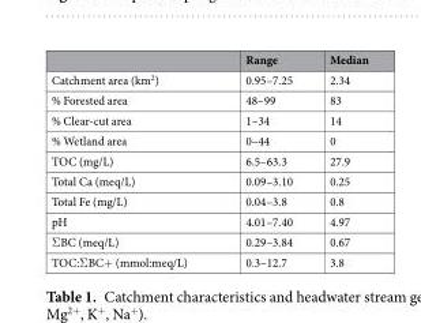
<table><thead><tr><td></td><td>Range</td><td>Median</td></tr></thead><tbody><tr><td>Catchment area (km<sup>2</sup>)</td><td>0.95–7.25</td><td>2.34</td></tr><tr><td>% Forested area</td><td>48–99</td><td>83</td></tr><tr><td>% Clear-cut area</td><td>1–34</td><td>14</td></tr><tr><td>% Wetland area</td><td>0–44</td><td>0</td></tr><tr><td>TOC (mg/L)</td><td>6.5–63.3</td><td>27.9</td></tr><tr><td>Total Ca (meq/L)</td><td>0.09–3.10</td><td>0.25</td></tr><tr><td>Total Fe (mg/L)</td><td>0.04–3.8</td><td>0.8</td></tr><tr><td>pH</td><td>4.01–7.40</td><td>4.97</td></tr><tr><td>ΣBC (meq/L)</td><td>0.29–3.84</td><td>0.67</td></tr><tr><td>TOC:ΣBC+ (mmol:meq/L)</td><td>0.3–12.7</td><td>3.8</td></tr></tbody></table>